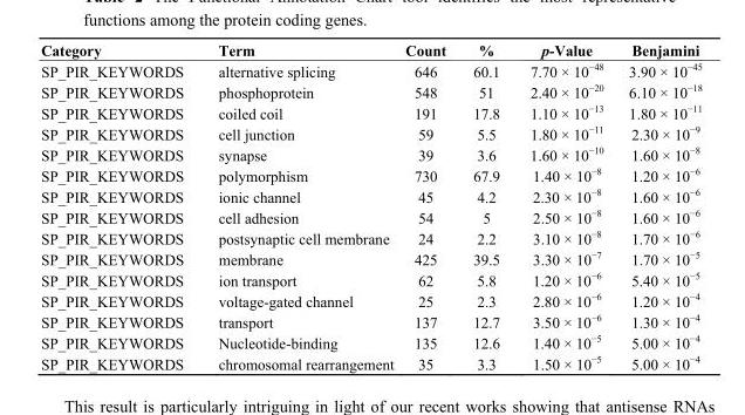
<table><thead><tr><td>Category</td><td>Term</td><td>Count</td><td>%</td><td>p-Value</td><td>Benjamini</td></tr></thead><tbody><tr><td>SP_PIR_KEYWORDS</td><td>alternative splicing</td><td>646</td><td>60.1</td><td>7.70 × 10<sup>−48</sup></td><td>3.90 × 10<sup>−45</sup></td></tr><tr><td>SP_PIR_KEYWORDS</td><td>phosphoprotein</td><td>548</td><td>51</td><td>2.40 × 10<sup>−20</sup></td><td>6.10 × 10<sup>−18</sup></td></tr><tr><td>SP_PIR_KEYWORDS</td><td>coiled coil</td><td>191</td><td>17.8</td><td>1.10 × 10<sup>−13</sup></td><td>1.80 × 10<sup>−11</sup></td></tr><tr><td>SP_PIR_KEYWORDS</td><td>cell junction</td><td>59</td><td>5.5</td><td>1.80 × 10<sup>−11</sup></td><td>2.30 × 10<sup>−9</sup></td></tr><tr><td>SP_PIR_KEYWORDS</td><td>synapse</td><td>39</td><td>3.6</td><td>1.60 × 10<sup>−10</sup></td><td>1.60 × 10<sup>−8</sup></td></tr><tr><td>SP_PIR_KEYWORDS</td><td>polymorphism</td><td>730</td><td>67.9</td><td>1.40 × 10<sup>−8</sup></td><td>1.20 × 10<sup>−6</sup></td></tr><tr><td>SP_PIR_KEYWORDS</td><td>ionic channel</td><td>45</td><td>4.2</td><td>2.30 × 10<sup>−8</sup></td><td>1.60 × 10<sup>−6</sup></td></tr><tr><td>SP_PIR_KEYWORDS</td><td>cell adhesion</td><td>54</td><td>5</td><td>2.50 × 10<sup>−8</sup></td><td>1.60 × 10<sup>−6</sup></td></tr><tr><td>SP_PIR_KEYWORDS</td><td>postsynaptic cell membrane</td><td>24</td><td>2.2</td><td>3.10 × 10<sup>−8</sup></td><td>1.70 × 10<sup>−6</sup></td></tr><tr><td>SP_PIR_KEYWORDS</td><td>membrane</td><td>425</td><td>39.5</td><td>3.30 × 10<sup>−7</sup></td><td>1.70 × 10<sup>−5</sup></td></tr><tr><td>SP_PIR_KEYWORDS</td><td>ion transport</td><td>62</td><td>5.8</td><td>1.20 × 10<sup>−6</sup></td><td>5.40 × 10<sup>−5</sup></td></tr><tr><td>SP_PIR_KEYWORDS</td><td>voltage-gated channel</td><td>25</td><td>2.3</td><td>2.80 × 10<sup>−6</sup></td><td>1.20 × 10<sup>−4</sup></td></tr><tr><td>SP_PIR_KEYWORDS</td><td>transport</td><td>137</td><td>12.7</td><td>3.50 × 10<sup>−6</sup></td><td>1.30 × 10<sup>−4</sup></td></tr><tr><td>SP_PIR_KEYWORDS</td><td>Nucleotide-binding</td><td>135</td><td>12.6</td><td>1.40 × 10<sup>−5</sup></td><td>5.00 × 10<sup>−4</sup></td></tr><tr><td>SP_PIR_KEYWORDS</td><td>chromosomal rearrangement</td><td>35</td><td>3.3</td><td>1.50 × 10<sup>−5</sup></td><td>5.00 × 10<sup>−4</sup></td></tr></tbody></table>